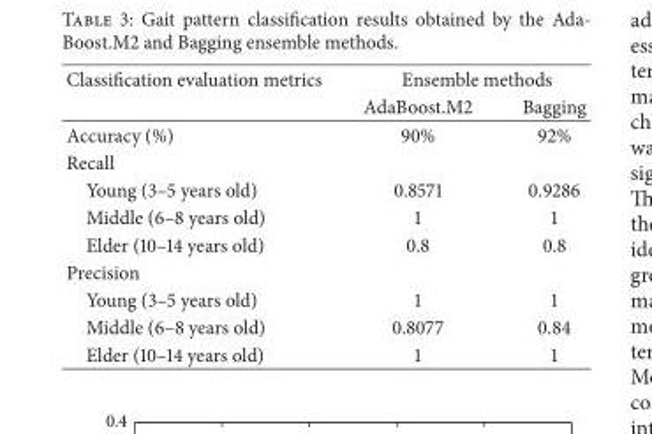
<table><thead><tr><td rowspan="2">Classification evaluation metrics</td><td colspan="2">Ensemble methods</td></tr><tr><td>AdaBoost.M2</td><td>Bagging</td></tr></thead><tbody><tr><td>Accuracy (%)</td><td>90%</td><td>92%</td></tr><tr><td colspan="3">Recall</td></tr><tr><td>Young (3–5 years old)</td><td>0.8571</td><td>0.9286</td></tr><tr><td>Middle (6–8 years old)</td><td>1</td><td>1</td></tr><tr><td>Elder (10–14 years old)</td><td>0.8</td><td>0.8</td></tr><tr><td colspan="3">Precision</td></tr><tr><td>Young (3–5 years old)</td><td>1</td><td>1</td></tr><tr><td>Middle (6–8 years old)</td><td>0.8077</td><td>0.84</td></tr><tr><td>Elder (10–14 years old)</td><td>1</td><td>1</td></tr></tbody></table>